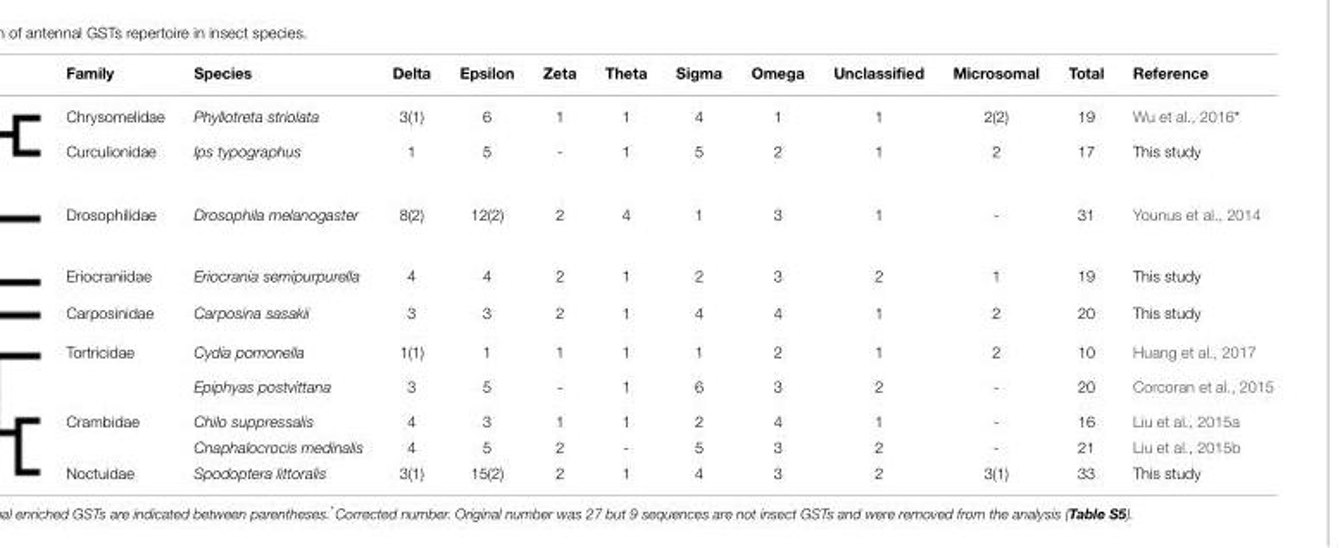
<table><thead><tr><td>Family</td><td>Species</td><td>Delta</td><td>Epsilon</td><td>Zeta</td><td>Theta</td><td>Sigma</td><td>Omega</td><td>Unclassified</td><td>Microsomal</td><td>Total</td><td>Reference</td></tr></thead><tbody><tr><td>Chrysomelidae</td><td>Phyllotreta striolata</td><td>3(1)</td><td>6</td><td>1</td><td>1</td><td>4</td><td>1</td><td>1</td><td>2(2)</td><td>19</td><td>Wu et al., 2016*</td></tr><tr><td>Curculionidae</td><td>Ips typographus</td><td>1</td><td>5</td><td>-</td><td>1</td><td>5</td><td>2</td><td>1</td><td>2</td><td>17</td><td>This study</td></tr><tr><td>Drosophilidae</td><td>Drosophila melanogaster</td><td>8(2)</td><td>12(2)</td><td>2</td><td>4</td><td>1</td><td>3</td><td>1</td><td>-</td><td>31</td><td>Younus et al., 2014</td></tr><tr><td>Eriocraniidae</td><td>Eriocrania semipurpurella</td><td>4</td><td>4</td><td>2</td><td>1</td><td>2</td><td>3</td><td>2</td><td>1</td><td>19</td><td>This study</td></tr><tr><td>Carposinidae</td><td>Carposina sasakii</td><td>3</td><td>3</td><td>2</td><td>1</td><td>4</td><td>4</td><td>1</td><td>2</td><td>20</td><td>This study</td></tr><tr><td rowspan="2">Tortricidae</td><td>Cydia pomonella</td><td>1(1)</td><td>1</td><td>1</td><td>1</td><td>1</td><td>2</td><td>1</td><td>2</td><td>10</td><td>Huang et al., 2017</td></tr><tr><td>Epiphyas postvittana</td><td>3</td><td>5</td><td>-</td><td>1</td><td>6</td><td>3</td><td>2</td><td>-</td><td>20</td><td>Corcoran et al., 2015</td></tr><tr><td rowspan="2">Crambidae</td><td>Chilo suppressalis</td><td>4</td><td>3</td><td>1</td><td>1</td><td>2</td><td>4</td><td>1</td><td>-</td><td>16</td><td>Liu et al., 2015a</td></tr><tr><td>Cnaphalocrocis medinalis</td><td>4</td><td>5</td><td>2</td><td>-</td><td>5</td><td>3</td><td>2</td><td>-</td><td>21</td><td>Liu et al., 2015b</td></tr><tr><td>Noctuidae</td><td>Spodoptera littoralis</td><td>3(1)</td><td>15(2)</td><td>2</td><td>1</td><td>4</td><td>3</td><td>2</td><td>3(1)</td><td>33</td><td>This study</td></tr></tbody></table>